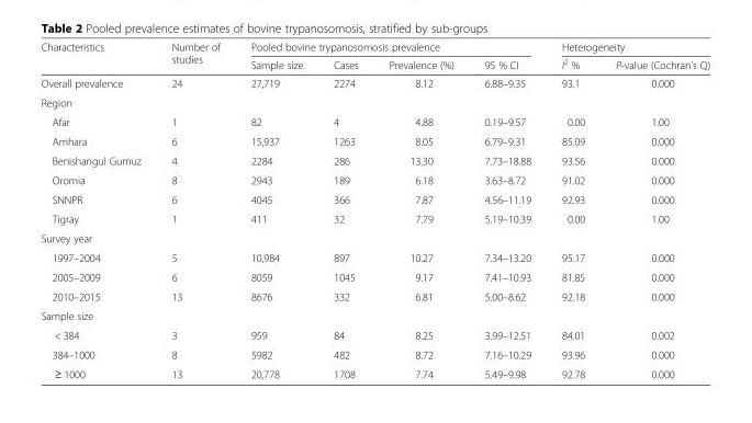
<table><thead><tr><td rowspan="2">Characteristics</td><td rowspan="2">Number of studies</td><td colspan="4">Pooled bovine trypanosomosis prevalence</td><td colspan="2">Heterogeneity</td></tr><tr><td>Sample size</td><td>Cases</td><td>Prevalence (%)</td><td>95 % CI</td><td>I<sup>2</sup> %</td><td>P-value (Cochran’s Q)</td></tr></thead><tbody><tr><td>Overall prevalence</td><td>24</td><td>27,719</td><td>2274</td><td>8.12</td><td>6.88–9.35</td><td>93.1</td><td>0.000</td></tr><tr><td colspan="8">Region</td></tr><tr><td>Afar</td><td>1</td><td>82</td><td>4</td><td>4.88</td><td>0.19–9.57</td><td>0.00</td><td>1.00</td></tr><tr><td>Amhara</td><td>6</td><td>15,937</td><td>1263</td><td>8.05</td><td>6.79–9.31</td><td>85.09</td><td>0.000</td></tr><tr><td>Benishangul Gumuz</td><td>4</td><td>2284</td><td>286</td><td>13.30</td><td>7.73–18.88</td><td>93.56</td><td>0.000</td></tr><tr><td>Oromia</td><td>8</td><td>2943</td><td>189</td><td>6.18</td><td>3.63–8.72</td><td>91.02</td><td>0.000</td></tr><tr><td>SNNPR</td><td>6</td><td>4045</td><td>366</td><td>7.87</td><td>4.56–11.19</td><td>92.93</td><td>0.000</td></tr><tr><td>Tigray</td><td>1</td><td>411</td><td>32</td><td>7.79</td><td>5.19–10.39</td><td>0.00</td><td>1.00</td></tr><tr><td colspan="8">Survey year</td></tr><tr><td>1997–2004</td><td>5</td><td>10,984</td><td>897</td><td>10.27</td><td>7.34–13.20</td><td>95.17</td><td>0.000</td></tr><tr><td>2005–2009</td><td>6</td><td>8059</td><td>1045</td><td>9.17</td><td>7.41–10.93</td><td>81.85</td><td>0.000</td></tr><tr><td>2010–2015</td><td>13</td><td>8676</td><td>332</td><td>6.81</td><td>5.00–8.62</td><td>92.18</td><td>0.000</td></tr><tr><td colspan="8">Sample size</td></tr><tr><td>&lt; 384</td><td>3</td><td>959</td><td>84</td><td>8.25</td><td>3.99–12.51</td><td>84.01</td><td>0.002</td></tr><tr><td>384–1000</td><td>8</td><td>5982</td><td>482</td><td>8.72</td><td>7.16–10.29</td><td>93.96</td><td>0.000</td></tr><tr><td>≥ 1000</td><td>13</td><td>20,778</td><td>1708</td><td>7.74</td><td>5.49–9.98</td><td>92.78</td><td>0.000</td></tr></tbody></table>